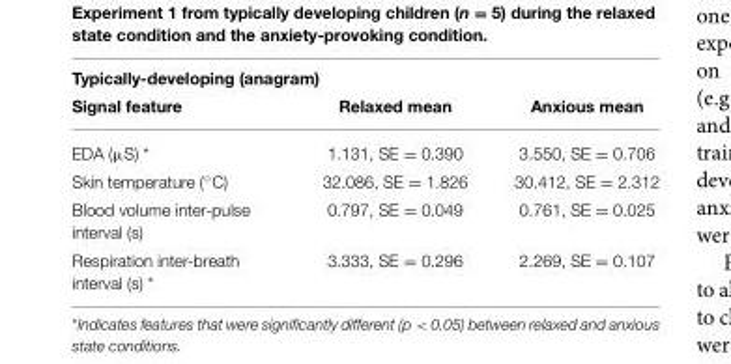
<table><thead><tr><td colspan="3">Typically-developing (anagram)</td></tr><tr><td>Signal feature</td><td>Relaxed mean</td><td>Anxious mean</td></tr></thead><tbody><tr><td>EDA (µS) *</td><td>1.131, SE = 0.390</td><td>3.550, SE = 0.706</td></tr><tr><td>Skin temperature (◦C)</td><td>32.086, SE = 1.826</td><td>30.412, SE = 2.312</td></tr><tr><td>Blood volume inter-pulse interval (s)</td><td>0.797, SE = 0.049</td><td>0.761, SE = 0.025</td></tr><tr><td>Respiration inter-breath interval (s) *</td><td>3.333, SE = 0.296</td><td>2.269, SE = 0.107</td></tr></tbody></table>